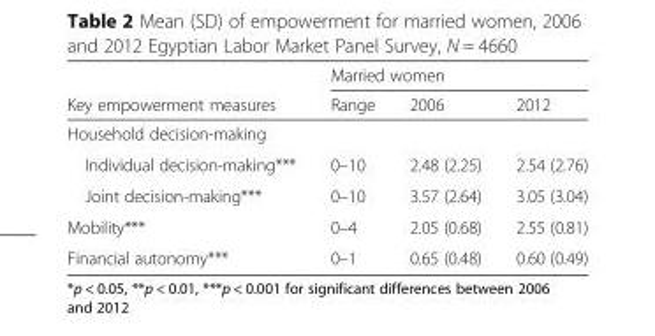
<table><thead><tr><td rowspan="2">Key empowerment measures</td><td colspan="3">Married women</td></tr><tr><td>Range</td><td>2006</td><td>2012</td></tr></thead><tbody><tr><td colspan="4">Household decision-making</td></tr><tr><td>Individual decision-making***</td><td>0–10</td><td>2.48 (2.25)</td><td>2.54 (2.76)</td></tr><tr><td>Joint decision-making***</td><td>0–10</td><td>3.57 (2.64)</td><td>3.05 (3.04)</td></tr><tr><td>Mobility***</td><td>0–4</td><td>2.05 (0.68)</td><td>2.55 (0.81)</td></tr><tr><td>Financial autonomy***</td><td>0–1</td><td>0.65 (0.48)</td><td>0.60 (0.49)</td></tr></tbody></table>